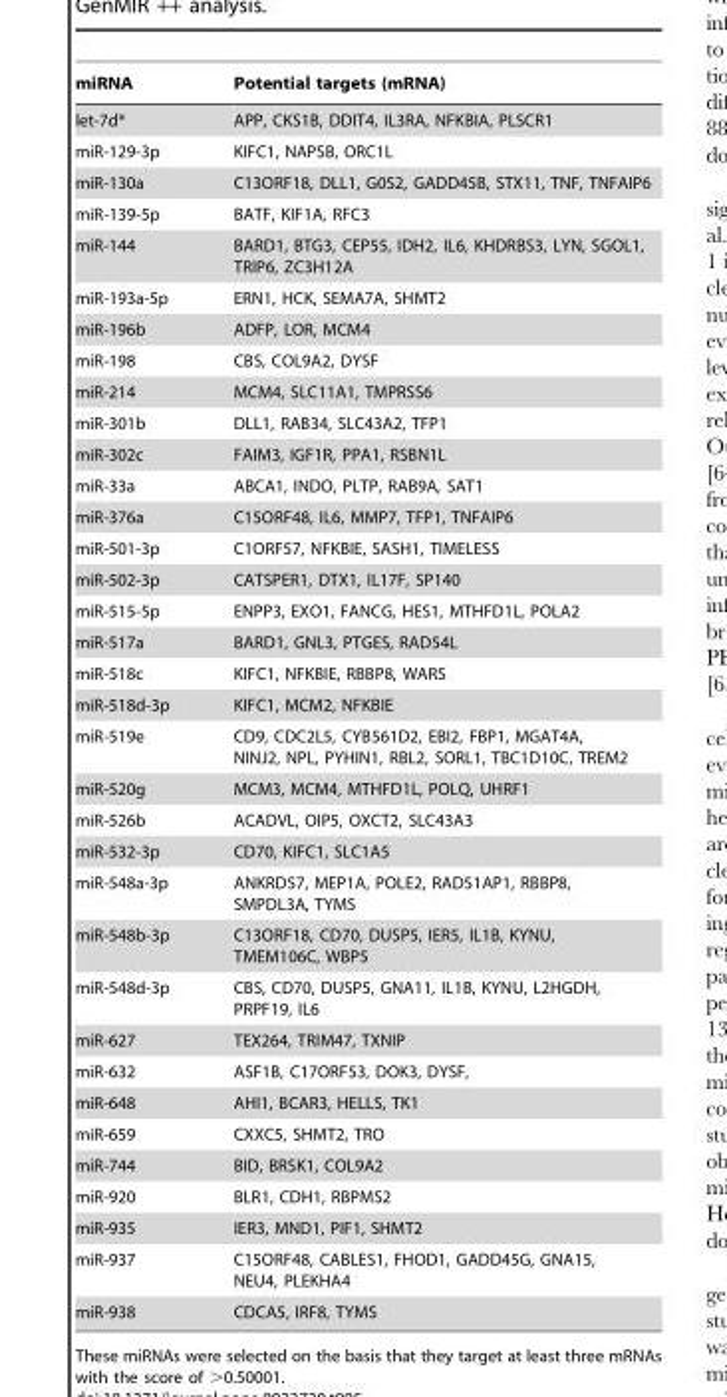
<table><thead><tr><td>miRNA</td><td>Potential targets (mRNA)</td></tr></thead><tbody><tr><td>let-7d*</td><td>APP, CKS1B, DDIT4, IL3RA, NFKBIA, PLSCR1</td></tr><tr><td>miR-129-3p</td><td>KIFC1, NAPSB, ORC1L</td></tr><tr><td>miR-130a</td><td>C13ORF18, DLL1, G0S2, GADD45B, STX11, TNF, TNFAIP6</td></tr><tr><td>miR-139-5p</td><td>BATF, KIF1A, RFC3</td></tr><tr><td>miR-144</td><td>BARD1, BTG3, CEP55, IDH2, IL6, KHDRBS3, LYN, SGOL1, TRIP6, ZC3H12A</td></tr><tr><td>miR-193a-5p</td><td>ERN1, HCK, SEMA7A, SHMT2</td></tr><tr><td>miR-196b</td><td>ADFP, LOR, MCM4</td></tr><tr><td>miR-198</td><td>CBS, COL9A2, DYSF</td></tr><tr><td>miR-214</td><td>MCM4, SLC11A1, TMPRSS6</td></tr><tr><td>miR-301b</td><td>DLL1, RAB34, SLC43A2, TFP1</td></tr><tr><td>miR-302c</td><td>FAIM3, IGF1R, PPA1, RSBN1L</td></tr><tr><td>miR-33a</td><td>ABCA1, INDO, PLTP, RAB9A, SAT1</td></tr><tr><td>miR-376a</td><td>C15ORF48, IL6, MMP7, TFP1, TNFAIP6</td></tr><tr><td>miR-501-3p</td><td>C1ORF57, NFKBIE, SASH1, TIMELESS</td></tr><tr><td>miR-502-3p</td><td>CATSPER1, DTX1, IL17F, SP140</td></tr><tr><td>miR-515-5p</td><td>ENPP3, EXO1, FANCG, HES1, MTHFD1L, POLA2</td></tr><tr><td>miR-517a</td><td>BARD1, GNL3, PTGES, RAD54L</td></tr><tr><td>miR-518c</td><td>KIFC1, NFKBIE, RBBP8, WARS</td></tr><tr><td>miR-518d-3p</td><td>KIFC1, MCM2, NFKBIE</td></tr><tr><td>miR-519e</td><td>CD9, CDC2L5, CYB561D2, EBI2, FBP1, MGAT4A, NINJ2, NPL, PYHIN1, RBL2, SORL1, TBC1D10C, TREM2</td></tr><tr><td>miR-520g</td><td>MCM3, MCM4, MTHFD1L, POLQ, UHRF1</td></tr><tr><td>miR-526b</td><td>ACADVL, OIP5, OXCT2, SLC43A3</td></tr><tr><td>miR-532-3p</td><td>CD70, KIFC1, SLC1A5</td></tr><tr><td>miR-548a-3p</td><td>ANKRD57, MEP1A, POLE2, RAD51AP1, RBBP8, SMPDL3A, TYMS</td></tr><tr><td>miR-548b-3p</td><td>C13ORF18, CD70, DUSP5, IER5, IL1B, KYNU, TMEM106C, WBP5</td></tr><tr><td>miR-548d-3p</td><td>CBS, CD70, DUSP5, GNA11, IL1B, KYNU, L2HGDH, PRPF19, IL6</td></tr><tr><td>miR-627</td><td>TEX264, TRIM47, TXNIP</td></tr><tr><td>miR-632</td><td>ASF1B, C17ORF53, DOK3, DYSF,</td></tr><tr><td>miR-648</td><td>AHI1, BCAR3, HELLS, TK1</td></tr><tr><td>miR-659</td><td>CXXC5, SHMT2, TRO</td></tr><tr><td>miR-744</td><td>BID, BRSK1, COL9A2</td></tr><tr><td>miR-920</td><td>BLR1, CDH1, RBPMS2</td></tr><tr><td>miR-935</td><td>IER3, MND1, PIF1, SHMT2</td></tr><tr><td>miR-937</td><td>C15ORF48, CABLES1, FHOD1, GADD45G, GNA15, NEU4, PLEKHA4</td></tr><tr><td>miR-938</td><td>CDCA5, IRF8, TYMS</td></tr></tbody></table>